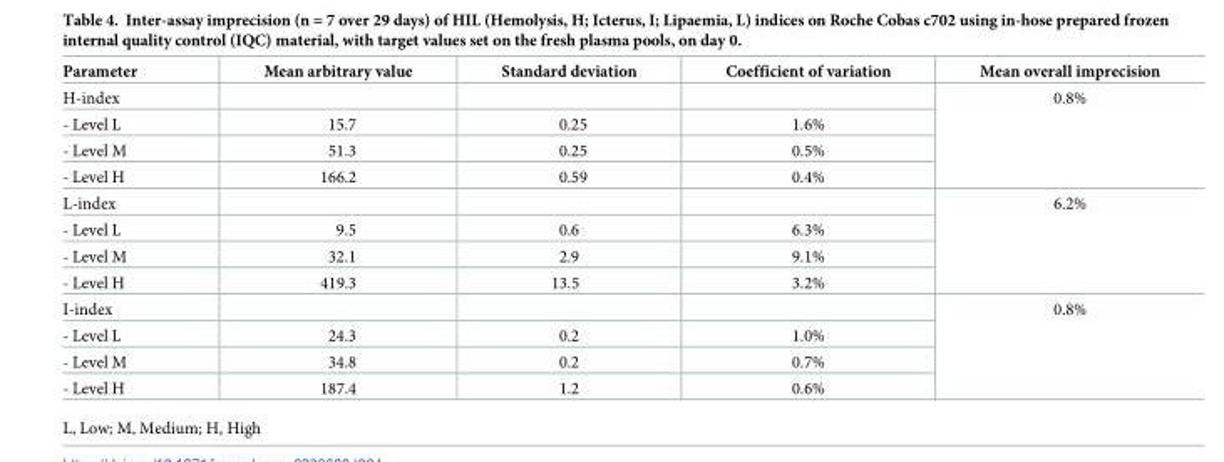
<table><thead><tr><td>Parameter</td><td>Mean arbitrary value</td><td>Standard deviation</td><td>Coefficient of variation</td><td>Mean overall imprecision</td></tr></thead><tbody><tr><td colspan="4">H-index</td><td rowspan="4">0.8%</td></tr><tr><td>- Level L</td><td>15.7</td><td>0.25</td><td>1.6%</td></tr><tr><td>- Level M</td><td>51.3</td><td>0.25</td><td>0.5%</td></tr><tr><td>- Level H</td><td>166.2</td><td>0.59</td><td>0.4%</td></tr><tr><td colspan="4">L-index</td><td rowspan="4">6.2%</td></tr><tr><td>- Level L</td><td>9.5</td><td>0.6</td><td>6.3%</td></tr><tr><td>- Level M</td><td>32.1</td><td>2.9</td><td>9.1%</td></tr><tr><td>- Level H</td><td>419.3</td><td>13.5</td><td>3.2%</td></tr><tr><td colspan="4">I-index</td><td rowspan="4">0.8%</td></tr><tr><td>- Level L</td><td>24.3</td><td>0.2</td><td>1.0%</td></tr><tr><td>- Level M</td><td>34.8</td><td>0.2</td><td>0.7%</td></tr><tr><td>- Level H</td><td>187.4</td><td>1.2</td><td>0.6%</td></tr></tbody></table>